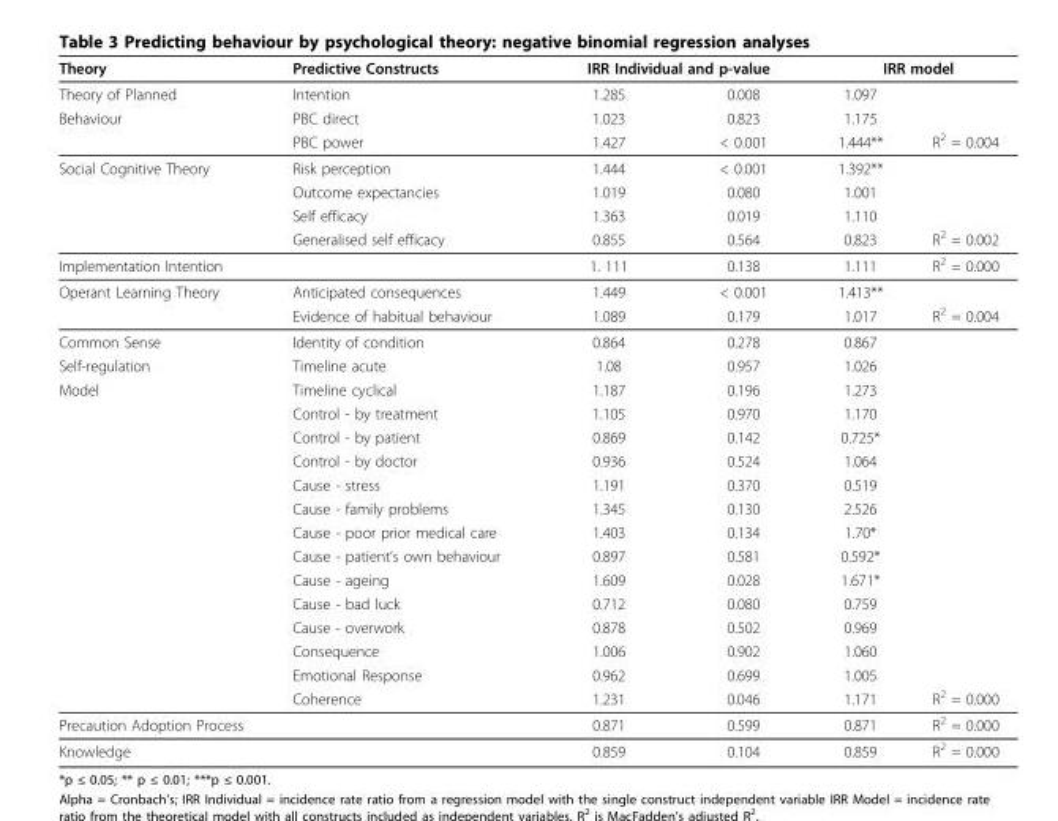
<table><thead><tr><td rowspan="2">Theory Theory of Planned</td><td rowspan="2">Predictive Constructs Intention</td><td colspan="2">IRR Individual and p-value</td><td colspan="2">IRR model</td></tr><tr><td>1.285</td><td>0.008</td><td>1.097</td><td></td></tr></thead><tbody><tr><td rowspan="2">Behaviour</td><td>PBC direct</td><td>1.023</td><td>0.823</td><td>1.175</td><td></td></tr><tr><td>PBC power</td><td>1.427</td><td>&lt; 0.001</td><td>1.444**</td><td>R2 = 0.004</td></tr><tr><td rowspan="4">Social Cognitive Theory</td><td>Risk perception</td><td>1.444</td><td>&lt; 0.001</td><td>1.392**</td><td></td></tr><tr><td>Outcome expectancies</td><td>1.019</td><td>0.080</td><td>1.001</td><td></td></tr><tr><td>Self efficacy</td><td>1.363</td><td>0.019</td><td>1.110</td><td></td></tr><tr><td>Generalised self efficacy</td><td>0.855</td><td>0.564</td><td>0.823</td><td>R<sup>2</sup> = 0.002</td></tr><tr><td>Implementation Intention</td><td></td><td>1. 111</td><td>0.138</td><td>1.111</td><td>R<sup>2</sup> = 0.000</td></tr><tr><td rowspan="2">Operant Learning Theory</td><td>Anticipated consequences</td><td>1.449</td><td>&lt; 0.001</td><td>1.413**</td><td></td></tr><tr><td>Evidence of habitual behaviour</td><td>1.089</td><td>0.179</td><td>1.017</td><td>R2 = 0.004</td></tr><tr><td>Common Sense</td><td>Identity of condition</td><td>0.864</td><td>0.278</td><td>0.867</td><td></td></tr><tr><td>Self-regulation</td><td>Timeline acute</td><td>1.08</td><td>0.957</td><td>1.026</td><td></td></tr><tr><td rowspan="14">Model</td><td>Timeline cyclical</td><td>1.187</td><td>0.196</td><td>1.273</td><td></td></tr><tr><td>Control - by treatment</td><td>1.105</td><td>0.970</td><td>1.170</td><td></td></tr><tr><td>Control - by patient</td><td>0.869</td><td>0.142</td><td>0.725*</td><td></td></tr><tr><td>Control - by doctor</td><td>0.936</td><td>0.524</td><td>1.064</td><td></td></tr><tr><td>Cause - stress</td><td>1.191</td><td>0.370</td><td>0.519</td><td></td></tr><tr><td>Cause - family problems</td><td>1.345</td><td>0.130</td><td>2.526</td><td></td></tr><tr><td>Cause - poor prior medical care</td><td>1.403</td><td>0.134</td><td>1.70*</td><td></td></tr><tr><td>Cause - patient’s own behaviour</td><td>0.897</td><td>0.581</td><td>0.592*</td><td></td></tr><tr><td>Cause - ageing</td><td>1.609</td><td>0.028</td><td>1.671*</td><td></td></tr><tr><td>Cause - bad luck</td><td>0.712</td><td>0.080</td><td>0.759</td><td></td></tr><tr><td>Cause - overwork</td><td>0.878</td><td>0.502</td><td>0.969</td><td></td></tr><tr><td>Consequence</td><td>1.006</td><td>0.902</td><td>1.060</td><td></td></tr><tr><td>Emotional Response</td><td>0.962</td><td>0.699</td><td>1.005</td><td></td></tr><tr><td>Coherence</td><td>1.231</td><td>0.046</td><td>1.171</td><td>R<sup>2</sup> = 0.000</td></tr><tr><td>Precaution Adoption Process</td><td></td><td>0.871</td><td>0.599</td><td>0.871</td><td>R<sup>2</sup> = 0.000</td></tr><tr><td>Knowledge</td><td></td><td>0.859</td><td>0.104</td><td>0.859</td><td>R<sup>2</sup> = 0.000</td></tr></tbody></table>